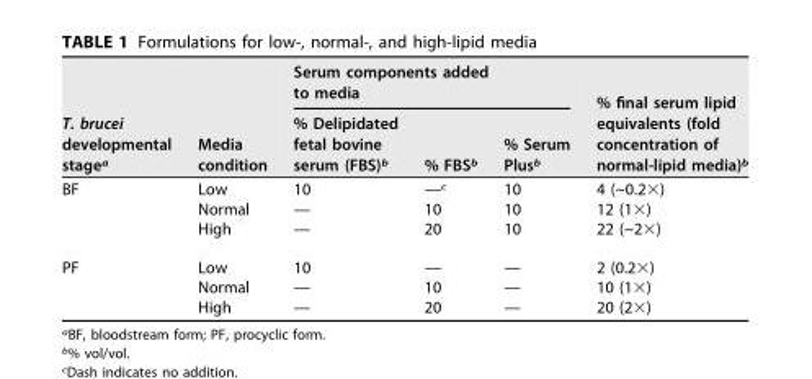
<table><thead><tr><td rowspan="2">T. brucei developmental stage<sup>a</sup></td><td rowspan="2">Media condition</td><td colspan="3">Serum components added to media</td><td rowspan="2">% final serum lipid equivalents (fold concentration of normal-lipid media)<sup>b</sup></td></tr><tr><td>% Delipidated fetal bovine serum (FBS)<sup>b</sup></td><td>% FBS<sup>b</sup></td><td>% Serum Plus<sup>b</sup></td></tr></thead><tbody><tr><td rowspan="3">BF</td><td>Low</td><td>10</td><td>—<sup>c</sup></td><td>10</td><td>4 (~0.2×)</td></tr><tr><td>Normal</td><td>—</td><td>10</td><td>10</td><td>12 (1×)</td></tr><tr><td>High</td><td>—</td><td>20</td><td>10</td><td>22 (~2×)</td></tr><tr><td rowspan="3">PF</td><td>Low</td><td>10</td><td>—</td><td>—</td><td>2 (0.2×)</td></tr><tr><td>Normal</td><td>—</td><td>10</td><td>—</td><td>10 (1×)</td></tr><tr><td>High</td><td>—</td><td>20</td><td>—</td><td>20 (2×)</td></tr></tbody></table>